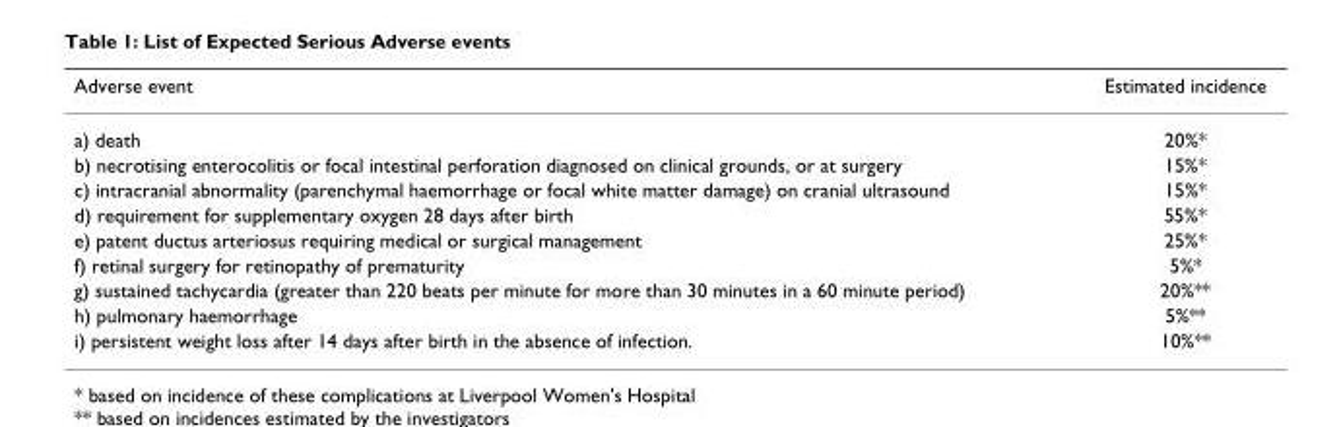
<table><thead><tr><td>Adverse event</td><td>Estimated incidence</td></tr></thead><tbody><tr><td>a) death</td><td>20%*</td></tr><tr><td>b) necrotising enterocolitis or focal intestinal perforation diagnosed on clinical grounds, or at surgery</td><td>15%*</td></tr><tr><td>c) intracranial abnormality (parenchymal haemorrhage or focal white matter damage) on cranial ultrasound</td><td>15%*</td></tr><tr><td>d) requirement for supplementary oxygen 28 days after birth</td><td>55%*</td></tr><tr><td>e) patent ductus arteriosus requiring medical or surgical management</td><td>25%*</td></tr><tr><td>f) retinal surgery for retinopathy of prematurity</td><td>5%*</td></tr><tr><td>g) sustained tachycardia (greater than 220 beats per minute for more than 30 minutes in a 60 minute period)</td><td>20%**</td></tr><tr><td>h) pulmonary haemorrhage</td><td>5%**</td></tr><tr><td>i) persistent weight loss after 14 days after birth in the absence of infection.</td><td>10%**</td></tr></tbody></table>